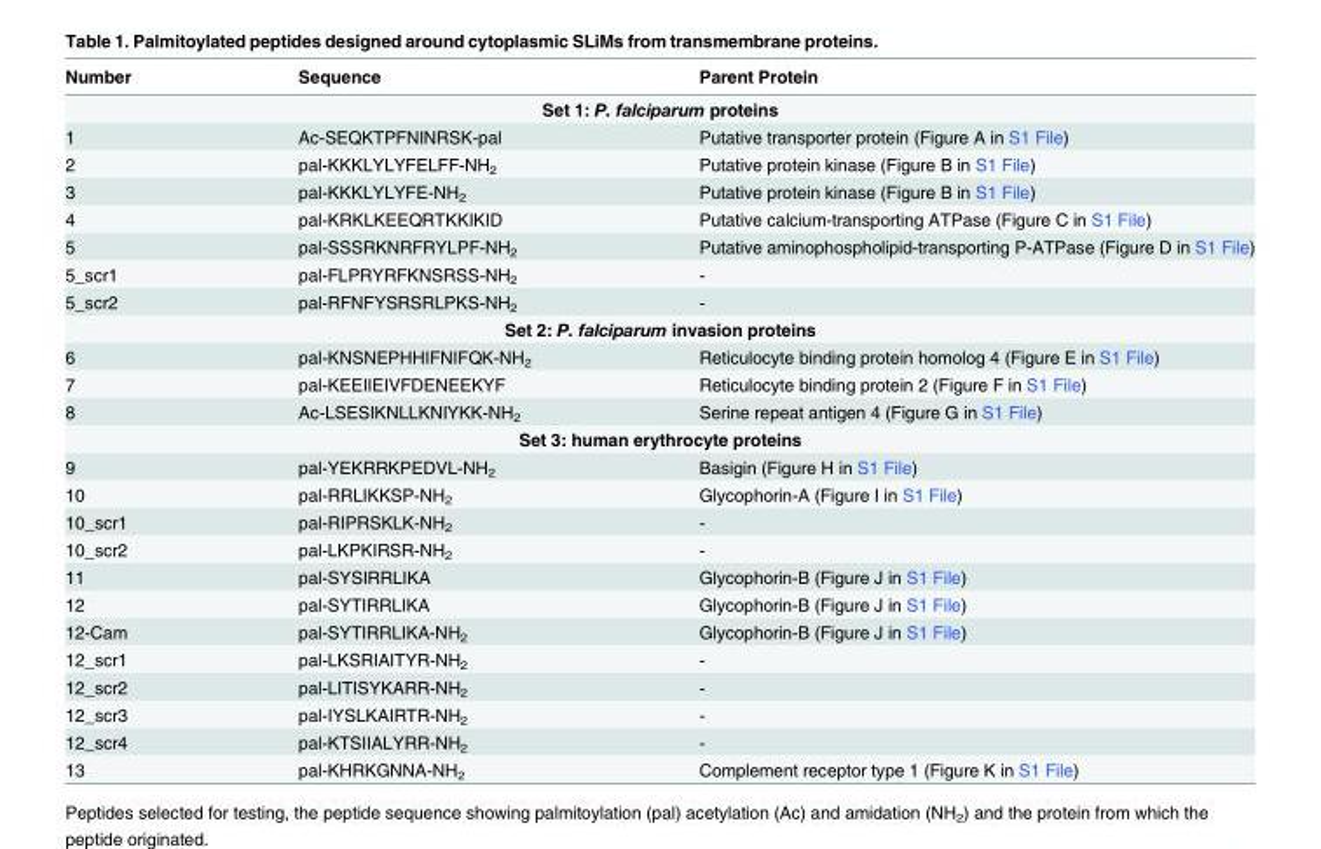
<table><thead><tr><td>Number</td><td>Sequence</td><td>Parent Protein</td></tr></thead><tbody><tr><td colspan="3">Set 1: P. falciparum proteins</td></tr><tr><td>1</td><td>Ac-SEQKTPFNINRSK-pal</td><td>Putative transporter protein (Figure A in S1 File)</td></tr><tr><td>2</td><td>pal-KKKLYLYFELFF-NH<sub>2</sub></td><td>Putative protein kinase (Figure B in S1 File)</td></tr><tr><td>3</td><td>pal-KKKLYLYFE-NH<sub>2</sub></td><td>Putative protein kinase (Figure B in S1 File)</td></tr><tr><td>4</td><td>pal-KRKLKEEQRTKKIKID</td><td>Putative calcium-transporting ATPase (Figure C in S1 File)</td></tr><tr><td>5</td><td>pal-SSSRKNRFRYLPF-NH<sub>2</sub></td><td>Putative aminophospholipid-transporting P-ATPase (Figure D in S1 File)</td></tr><tr><td>5_scr1</td><td>pal-FLPRYRFKNSRSS-NH<sub>2</sub></td><td>-</td></tr><tr><td>5_scr2</td><td>pal-RFNFYSRSRLPKS-NH<sub>2</sub></td><td>-</td></tr><tr><td colspan="3">Set 2: P. falciparum invasion proteins</td></tr><tr><td>6</td><td>pal-KNSNEPHHIFNIFQK-NH<sub>2</sub></td><td>Reticulocyte binding protein homolog 4 (Figure E in S1 File)</td></tr><tr><td>7</td><td>pal-KEEIIEIVFDENEEKYF</td><td>Reticulocyte binding protein 2 (Figure F in S1 File)</td></tr><tr><td>8</td><td>Ac-LSESIKNLLKNIYKK-NH<sub>2</sub></td><td>Serine repeat antigen 4 (Figure G in S1 File)</td></tr><tr><td colspan="3">Set 3: human erythrocyte proteins</td></tr><tr><td>9</td><td>pal-YEKRRKPEDVL-NH<sub>2</sub></td><td>Basigin (Figure H in S1 File)</td></tr><tr><td>10</td><td>pal-RRLIKKSP-NH<sub>2</sub></td><td>Glycophorin-A (Figure I in S1 File)</td></tr><tr><td>10_scr1</td><td>pal-RIPRSKLK-NH<sub>2</sub></td><td>-</td></tr><tr><td>10_scr2</td><td>pal-LKPKIRSR-NH<sub>2</sub></td><td>-</td></tr><tr><td>11</td><td>pal-SYSIRRLIKA</td><td>Glycophorin-B (Figure J in S1 File)</td></tr><tr><td>12</td><td>pal-SYTIRRLIKA</td><td>Glycophorin-B (Figure J in S1 File)</td></tr><tr><td>12-Cam</td><td>pal-SYTIRRLIKA-NH<sub>2</sub></td><td>Glycophorin-B (Figure J in S1 File)</td></tr><tr><td>12_scr1</td><td>pal-LKSRIAITYR-NH<sub>2</sub></td><td>-</td></tr><tr><td>12_scr2</td><td>pal-LITISYKARR-NH<sub>2</sub></td><td>-</td></tr><tr><td>12_scr3</td><td>pal-IYSLKAIRTR-NH<sub>2</sub></td><td>-</td></tr><tr><td>12_scr4</td><td>pal-KTSIIALYRR-NH<sub>2</sub></td><td>-</td></tr><tr><td>13</td><td>pal-KHRKGNNA-NH<sub>2</sub></td><td>Complement receptor type 1 (Figure K in S1 File)</td></tr></tbody></table>